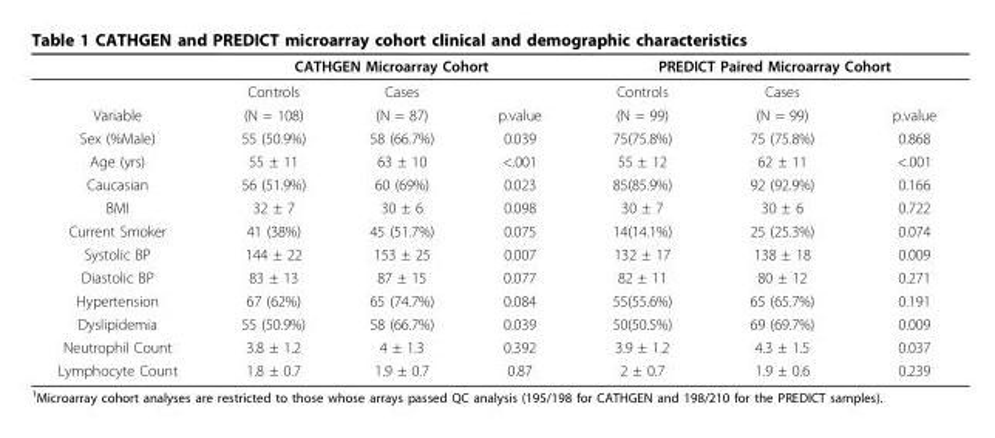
<table><thead><tr><td rowspan="2"></td><td colspan="3">CATHGEN Microarray Cohort</td><td colspan="3">PREDICT Paired Microarray Cohort</td></tr><tr><td>Controls</td><td>Cases</td><td></td><td>Controls</td><td>Cases</td><td></td></tr></thead><tbody><tr><td>Variable</td><td>(N = 108)</td><td>(N = 87)</td><td>p.value</td><td>(N = 99)</td><td>(N = 99)</td><td>p.value</td></tr><tr><td>Sex (%Male)</td><td>55 (50.9%)</td><td>58 (66.7%)</td><td>0.039</td><td>75(75.8%)</td><td>75 (75.8%)</td><td>0.868</td></tr><tr><td>Age (yrs)</td><td>55 ± 11</td><td>63 ± 10</td><td>&lt;.001</td><td>55 ± 12</td><td>62 ± 11</td><td>&lt;.001</td></tr><tr><td>Caucasian</td><td>56 (51.9%)</td><td>60 (69%)</td><td>0.023</td><td>85(85.9%)</td><td>92 (92.9%)</td><td>0.166</td></tr><tr><td>BMI</td><td>32 ± 7</td><td>30 ± 6</td><td>0.098</td><td>30 ± 7</td><td>30 ± 6</td><td>0.722</td></tr><tr><td>Current Smoker</td><td>41 (38%)</td><td>45 (51.7%)</td><td>0.075</td><td>14(14.1%)</td><td>25 (25.3%)</td><td>0.074</td></tr><tr><td>Systolic BP</td><td>144 ± 22</td><td>153 ± 25</td><td>0.007</td><td>132 ± 17</td><td>138 ± 18</td><td>0.009</td></tr><tr><td>Diastolic BP</td><td>83 ± 13</td><td>87 ± 15</td><td>0.077</td><td>82 ± 11</td><td>80 ± 12</td><td>0.271</td></tr><tr><td>Hypertension</td><td>67 (62%)</td><td>65 (74.7%)</td><td>0.084</td><td>55(55.6%)</td><td>65 (65.7%)</td><td>0.191</td></tr><tr><td>Dyslipidemia</td><td>55 (50.9%)</td><td>58 (66.7%)</td><td>0.039</td><td>50(50.5%)</td><td>69 (69.7%)</td><td>0.009</td></tr><tr><td>Neutrophil Count</td><td>3.8 ± 1.2</td><td>4 ± 1.3</td><td>0.392</td><td>3.9 ± 1.2</td><td>4.3 ± 1.5</td><td>0.037</td></tr><tr><td>Lymphocyte Count</td><td>1.8 ± 0.7</td><td>1.9 ± 0.7</td><td>0.87</td><td>2 ± 0.7</td><td>1.9 ± 0.6</td><td>0.239</td></tr></tbody></table>